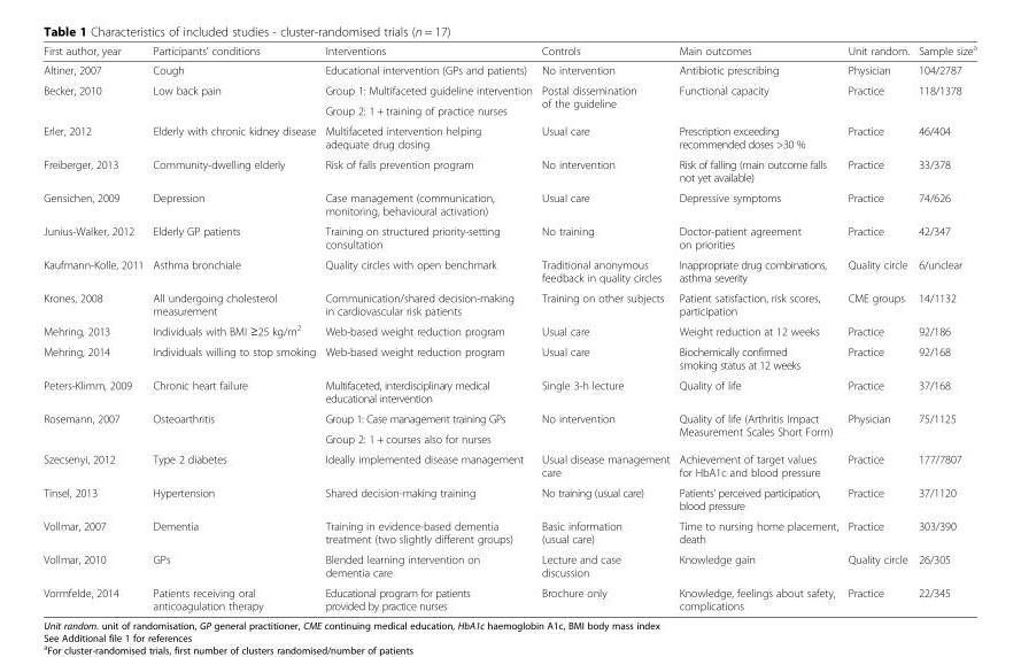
<table><thead><tr><td>First author, year</td><td>Participants’ conditions</td><td>Interventions</td><td>Controls</td><td>Main outcomes</td><td>Unit random.</td><td>Sample size<sup>a</sup></td></tr></thead><tbody><tr><td>Altiner, 2007</td><td>Cough</td><td>Educational intervention (GPs and patients)</td><td>No intervention</td><td>Antibiotic prescribing</td><td>Physician</td><td>104/2787</td></tr><tr><td rowspan="2">Becker, 2010</td><td rowspan="2">Low back pain</td><td>Group 1: Multifaceted guideline intervention</td><td rowspan="2">Postal dissemination of the guideline</td><td rowspan="2">Functional capacity</td><td rowspan="2">Practice</td><td rowspan="2">118/1378</td></tr><tr><td>Group 2: 1 + training of practice nurses</td></tr><tr><td>Erler, 2012</td><td>Elderly with chronic kidney disease</td><td>Multifaceted intervention helping adequate drug dosing</td><td>Usual care</td><td>Prescription exceeding recommended doses &gt;30 %</td><td>Practice</td><td>46/404</td></tr><tr><td>Freiberger, 2013</td><td>Community-dwelling elderly</td><td>Risk of falls prevention program</td><td>No intervention</td><td>Risk of falling (main outcome falls not yet available)</td><td>Practice</td><td>33/378</td></tr><tr><td>Gensichen, 2009</td><td>Depression</td><td>Case management (communication, monitoring, behavioural activation)</td><td>Usual care</td><td>Depressive symptoms</td><td>Practice</td><td>74/626</td></tr><tr><td>Junius-Walker, 2012</td><td>Elderly GP patients</td><td>Training on structured priority-setting consultation</td><td>No training</td><td>Doctor-patient agreement on priorities</td><td>Practice</td><td>42/347</td></tr><tr><td>Kaufmann-Kolle, 2011</td><td>Asthma bronchiale</td><td>Quality circles with open benchmark</td><td>Traditional anonymous feedback in quality circles</td><td>Inappropriate drug combinations, asthma severity</td><td>Quality circle</td><td>6/unclear</td></tr><tr><td>Krones, 2008</td><td>All undergoing cholesterol measurement</td><td>Communication/shared decision-making in cardiovascular risk patients</td><td>Training on other subjects</td><td>Patient satisfaction, risk scores, participation</td><td>CME groups</td><td>14/1132</td></tr><tr><td>Mehring, 2013</td><td>Individuals with BMI ≥25 kg/m<sup>2</sup></td><td>Web-based weight reduction program</td><td>Usual care</td><td>Weight reduction at 12 weeks</td><td>Practice</td><td>92/186</td></tr><tr><td>Mehring, 2014</td><td>Individuals willing to stop smoking</td><td>Web-based weight reduction program</td><td>Usual care</td><td>Biochemically confirmed smoking status at 12 weeks</td><td>Practice</td><td>92/168</td></tr><tr><td>Peters-Klimm, 2009</td><td>Chronic heart failure</td><td>Multifaceted, interdisciplinary medical educational intervention</td><td>Single 3-h lecture</td><td>Quality of life</td><td>Practice</td><td>37/168</td></tr><tr><td rowspan="2">Rosemann, 2007</td><td rowspan="2">Osteoarthritis</td><td>Group 1: Case management training GPs</td><td rowspan="2">No intervention</td><td rowspan="2">Quality of life (Arthritis Impact Measurement Scales Short Form)</td><td rowspan="2">Physician</td><td rowspan="2">75/1125</td></tr><tr><td>Group 2: 1 + courses also for nurses</td></tr><tr><td>Szecsenyi, 2012</td><td>Type 2 diabetes</td><td>Ideally implemented disease management</td><td>Usual disease management care</td><td>Achievement of target values for HbA1c and blood pressure</td><td>Practice</td><td>177/7807</td></tr><tr><td>Tinsel, 2013</td><td>Hypertension</td><td>Shared decision-making training</td><td>No training (usual care)</td><td>Patients’ perceived participation, blood pressure</td><td>Practice</td><td>37/1120</td></tr><tr><td>Vollmar, 2007</td><td>Dementia</td><td>Training in evidence-based dementia treatment (two slightly different groups)</td><td>Basic information (usual care)</td><td>Time to nursing home placement, death</td><td>Practice</td><td>303/390</td></tr><tr><td>Vollmar, 2010</td><td>GPs</td><td>Blended learning intervention on dementia care</td><td>Lecture and case discussion</td><td>Knowledge gain</td><td>Quality circle</td><td>26/305</td></tr><tr><td>Vormfelde, 2014</td><td>Patients receiving oral anticoagulation therapy</td><td>Educational program for patients provided by practice nurses</td><td>Brochure only</td><td>Knowledge, feelings about safety, complications</td><td>Practice</td><td>22/345</td></tr></tbody></table>